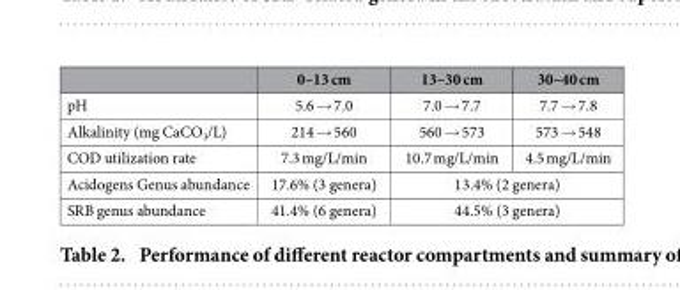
<table><thead><tr><td></td><td>0–13 cm</td><td>13–30 cm</td><td>30–40 cm</td></tr></thead><tbody><tr><td>pH</td><td>5.6 → 7.0</td><td>7.0 → 7.7</td><td>7.7 → 7.8</td></tr><tr><td>Alkalinity (mg CaCO<sub>3</sub>/L)</td><td>214 → 560</td><td>560 → 573</td><td>573 → 548</td></tr><tr><td>COD utilization rate</td><td>7.3 mg/L/min</td><td>10.7 mg/L/min</td><td>4.5 mg/L/min</td></tr><tr><td>Acidogens Genus abundance</td><td>17.6% (3 genera)</td><td colspan="2">13.4% (2 genera)</td></tr><tr><td>SRB genus abundance</td><td>41.4% (6 genera)</td><td colspan="2">44.5% (3 genera)</td></tr></tbody></table>